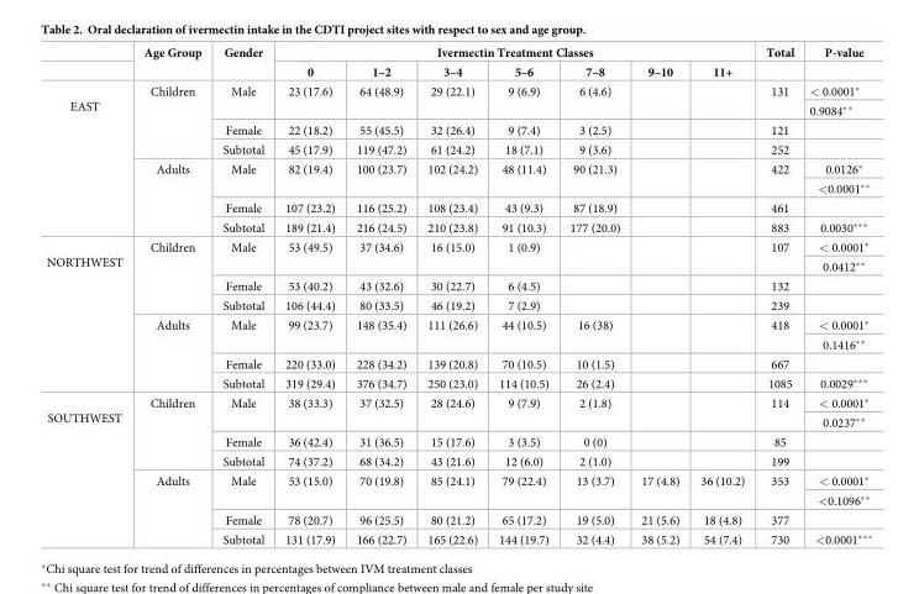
<table><thead><tr><td rowspan="2"></td><td rowspan="2">Age Group</td><td rowspan="2">Gender</td><td colspan="7">Ivermectin Treatment Classes</td><td rowspan="2">Total</td><td rowspan="2">P-value</td></tr><tr><td>0</td><td>1–2</td><td>3–4</td><td>5–6</td><td>7–8</td><td>9–10</td><td>11+</td></tr></thead><tbody><tr><td rowspan="8">EAST</td><td rowspan="4">Children</td><td rowspan="2">Male</td><td rowspan="2">23 (17.6)</td><td rowspan="2">64 (48.9)</td><td rowspan="2">29 (22.1)</td><td rowspan="2">9 (6.9)</td><td rowspan="2">6 (4.6)</td><td rowspan="2"></td><td rowspan="2"></td><td rowspan="2">131</td><td>&lt; 0.0001*</td></tr><tr><td>0.9084**</td></tr><tr><td>Female</td><td>22 (18.2)</td><td>55 (45.5)</td><td>32 (26.4)</td><td>9 (7.4)</td><td>3 (2.5)</td><td></td><td></td><td>121</td><td></td></tr><tr><td>Subtotal</td><td>45 (17.9)</td><td>119 (47.2)</td><td>61 (24.2)</td><td>18 (7.1)</td><td>9 (3.6)</td><td></td><td></td><td>252</td><td></td></tr><tr><td rowspan="4">Adults</td><td rowspan="2">Male</td><td rowspan="2">82 (19.4)</td><td rowspan="2">100 (23.7)</td><td rowspan="2">102 (24.2)</td><td rowspan="2">48 (11.4)</td><td rowspan="2">90 (21.3)</td><td rowspan="2"></td><td rowspan="2"></td><td rowspan="2">422</td><td>0.0126*</td></tr><tr><td>&lt;0.0001**</td></tr><tr><td>Female</td><td>107 (23.2)</td><td>116 (25.2)</td><td>108 (23.4)</td><td>43 (9.3)</td><td>87 (18.9)</td><td></td><td></td><td>461</td><td></td></tr><tr><td>Subtotal</td><td>189 (21.4)</td><td>216 (24.5)</td><td>210 (23.8)</td><td>91 (10.3)</td><td>177 (20.0)</td><td></td><td></td><td>883</td><td>0.0030***</td></tr><tr><td rowspan="8">NORTHWEST</td><td rowspan="4">Children</td><td rowspan="2">Male</td><td rowspan="2">53 (49.5)</td><td rowspan="2">37 (34.6)</td><td rowspan="2">16 (15.0)</td><td rowspan="2">1 (0.9)</td><td rowspan="2"></td><td rowspan="2"></td><td rowspan="2"></td><td rowspan="2">107</td><td>&lt; 0.0001*</td></tr><tr><td>0.0412**</td></tr><tr><td>Female</td><td>53 (40.2)</td><td>43 (32.6)</td><td>30 (22.7)</td><td>6 (4.5)</td><td></td><td></td><td></td><td>132</td><td></td></tr><tr><td>Subtotal</td><td>106 (44.4)</td><td>80 (33.5)</td><td>46 (19.2)</td><td>7 (2.9)</td><td></td><td></td><td></td><td>239</td><td></td></tr><tr><td rowspan="4">Adults</td><td rowspan="2">Male</td><td rowspan="2">99 (23.7)</td><td rowspan="2">148 (35.4)</td><td rowspan="2">111 (26.6)</td><td rowspan="2">44 (10.5)</td><td rowspan="2">16 (38)</td><td rowspan="2"></td><td rowspan="2"></td><td rowspan="2">418</td><td>&lt; 0.0001*</td></tr><tr><td>0.1416**</td></tr><tr><td>Female</td><td>220 (33.0)</td><td>228 (34.2)</td><td>139 (20.8)</td><td>70 (10.5)</td><td>10 (1.5)</td><td></td><td></td><td>667</td><td></td></tr><tr><td>Subtotal</td><td>319 (29.4)</td><td>376 (34.7)</td><td>250 (23.0)</td><td>114 (10.5)</td><td>26 (2.4)</td><td></td><td></td><td>1085</td><td>0.0029***</td></tr><tr><td rowspan="8">SOUTHWEST</td><td rowspan="4">Children</td><td rowspan="2">Male</td><td rowspan="2">38 (33.3)</td><td rowspan="2">37 (32.5)</td><td rowspan="2">28 (24.6)</td><td rowspan="2">9 (7.9)</td><td rowspan="2">2 (1.8)</td><td rowspan="2"></td><td rowspan="2"></td><td rowspan="2">114</td><td>&lt; 0.0001*</td></tr><tr><td>0.0237**</td></tr><tr><td>Female</td><td>36 (42.4)</td><td>31 (36.5)</td><td>15 (17.6)</td><td>3 (3.5)</td><td>0 (0)</td><td></td><td></td><td>85</td><td></td></tr><tr><td>Subtotal</td><td>74 (37.2)</td><td>68 (34.2)</td><td>43 (21.6)</td><td>12 (6.0)</td><td>2 (1.0)</td><td></td><td></td><td>199</td><td></td></tr><tr><td rowspan="4">Adults</td><td rowspan="2">Male</td><td rowspan="2">53 (15.0)</td><td rowspan="2">70 (19.8)</td><td rowspan="2">85 (24.1)</td><td rowspan="2">79 (22.4)</td><td rowspan="2">13 (3.7)</td><td rowspan="2">17 (4.8)</td><td rowspan="2">36 (10.2)</td><td rowspan="2">353</td><td>&lt; 0.0001*</td></tr><tr><td>&lt;0.1096**</td></tr><tr><td>Female</td><td>78 (20.7)</td><td>96 (25.5)</td><td>80 (21.2)</td><td>65 (17.2)</td><td>19 (5.0)</td><td>21 (5.6)</td><td>18 (4.8)</td><td>377</td><td></td></tr><tr><td>Subtotal</td><td>131 (17.9)</td><td>166 (22.7)</td><td>165 (22.6)</td><td>144 (19.7)</td><td>32 (4.4)</td><td>38 (5.2)</td><td>54 (7.4)</td><td>730</td><td>&lt;0.0001***</td></tr></tbody></table>